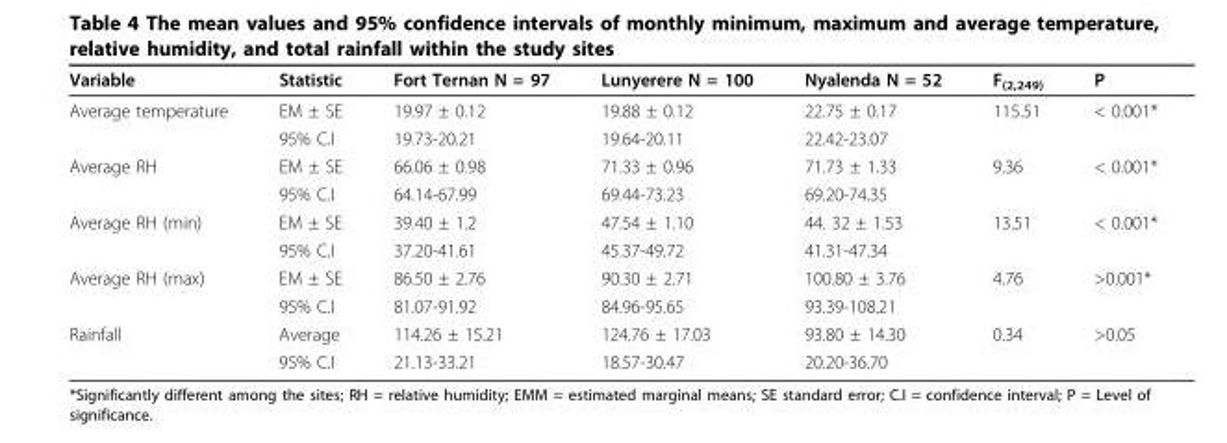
<table><thead><tr><td>Variable</td><td>Statistic</td><td>Fort Ternan N = 97</td><td>Lunyerere N = 100</td><td>Nyalenda N = 52</td><td>F<sub>(2,249)</sub></td><td>P</td></tr></thead><tbody><tr><td rowspan="2">Average temperature</td><td>EM ± SE</td><td>19.97 ± 0.12</td><td>19.88 ± 0.12</td><td>22.75 ± 0.17</td><td>115.51</td><td>&lt; 0.001*</td></tr><tr><td>95% C.I</td><td>19.73-20.21</td><td>19.64-20.11</td><td>22.42-23.07</td><td></td><td></td></tr><tr><td rowspan="2">Average RH</td><td>EM ± SE</td><td>66.06 ± 0.98</td><td>71.33 ± 0.96</td><td>71.73 ± 1.33</td><td>9.36</td><td>&lt; 0.001*</td></tr><tr><td>95% C.I</td><td>64.14-67.99</td><td>69.44-73.23</td><td>69.20-74.35</td><td></td><td></td></tr><tr><td rowspan="2">Average RH (min)</td><td>EM ± SE</td><td>39.40 ± 1.2</td><td>47.54 ± 1.10</td><td>44. 32 ± 1.53</td><td>13.51</td><td>&lt; 0.001*</td></tr><tr><td>95% C.I</td><td>37.20-41.61</td><td>45.37-49.72</td><td>41.31-47.34</td><td></td><td></td></tr><tr><td rowspan="2">Average RH (max)</td><td>EM ± SE</td><td>86.50 ± 2.76</td><td>90.30 ± 2.71</td><td>100.80 ± 3.76</td><td>4.76</td><td>&gt;0.001*</td></tr><tr><td>95% C.I</td><td>81.07-91.92</td><td>84.96-95.65</td><td>93.39-108.21</td><td></td><td></td></tr><tr><td rowspan="2">Rainfall</td><td>Average</td><td>114.26 ± 15.21</td><td>124.76 ± 17.03</td><td>93.80 ± 14.30</td><td>0.34</td><td>&gt;0.05</td></tr><tr><td>95% C.I</td><td>21.13-33.21</td><td>18.57-30.47</td><td>20.20-36.70</td><td></td><td></td></tr></tbody></table>